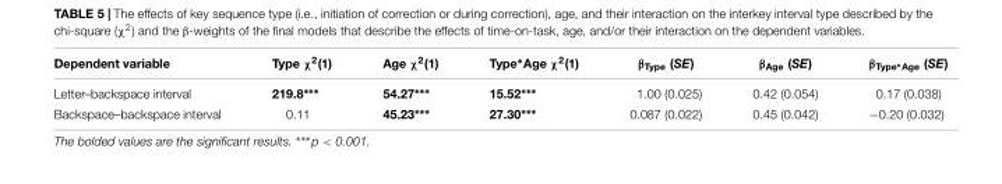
<table><thead><tr><td>Dependent variable</td><td>Type χ<sup>2</sup>(1)</td><td>Age χ<sup>2</sup>(1)</td><td>Type∗Age χ<sup>2</sup>(1)</td><td>β<sub>Type</sub> (SE)</td><td>β<sub>Age</sub> (SE)</td><td>β<sub>Type∗Age</sub> (SE)</td></tr></thead><tbody><tr><td>Letter–backspace interval</td><td>219.8∗∗∗</td><td>54.27∗∗∗</td><td>15.52∗∗∗</td><td>1.00 (0.025)</td><td>0.42 (0.054)</td><td>0.17 (0.038)</td></tr><tr><td>Backspace–backspace interval</td><td>0.11</td><td>45.23∗∗∗</td><td>27.30∗∗∗</td><td>0.087 (0.022)</td><td>0.45 (0.042)</td><td>−0.20 (0.032)</td></tr></tbody></table>